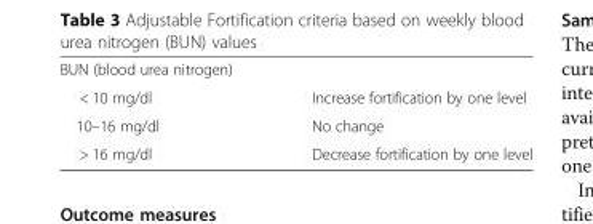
<table><tbody><tr><td colspan="2">BUN (blood urea nitrogen)</td></tr><tr><td>&lt; 10 mg/dl</td><td>Increase fortification by one level</td></tr><tr><td>10–16 mg/dl</td><td>No change</td></tr><tr><td>&gt; 16 mg/dl</td><td>Decrease fortification by one level</td></tr></tbody></table>